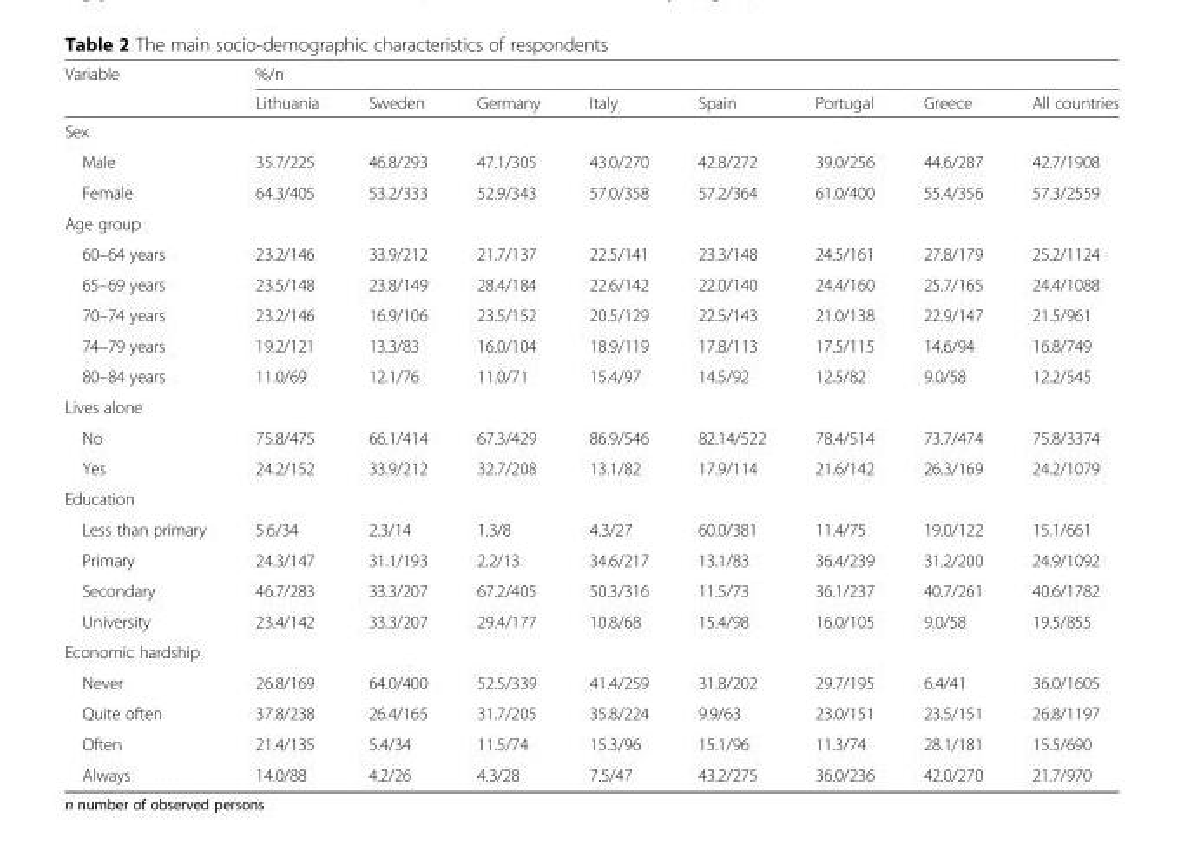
<table><thead><tr><td rowspan="2">Variable</td><td colspan="8">%/n</td></tr><tr><td>Lithuania</td><td>Sweden</td><td>Germany</td><td>Italy</td><td>Spain</td><td>Portugal</td><td>Greece</td><td>All countries</td></tr></thead><tbody><tr><td colspan="9">Sex</td></tr><tr><td>Male</td><td>35.7/225</td><td>46.8/293</td><td>47.1/305</td><td>43.0/270</td><td>42.8/272</td><td>39.0/256</td><td>44.6/287</td><td>42.7/1908</td></tr><tr><td>Female</td><td>64.3/405</td><td>53.2/333</td><td>52.9/343</td><td>57.0/358</td><td>57.2/364</td><td>61.0/400</td><td>55.4/356</td><td>57.3/2559</td></tr><tr><td colspan="9">Age group</td></tr><tr><td>60–64 years</td><td>23.2/146</td><td>33.9/212</td><td>21.7/137</td><td>22.5/141</td><td>23.3/148</td><td>24.5/161</td><td>27.8/179</td><td>25.2/1124</td></tr><tr><td>65–69 years</td><td>23.5/148</td><td>23.8/149</td><td>28.4/184</td><td>22.6/142</td><td>22.0/140</td><td>24.4/160</td><td>25.7/165</td><td>24.4/1088</td></tr><tr><td>70–74 years</td><td>23.2/146</td><td>16.9/106</td><td>23.5/152</td><td>20.5/129</td><td>22.5/143</td><td>21.0/138</td><td>22.9/147</td><td>21.5/961</td></tr><tr><td>74–79 years</td><td>19.2/121</td><td>13.3/83</td><td>16.0/104</td><td>18.9/119</td><td>17.8/113</td><td>17.5/115</td><td>14.6/94</td><td>16.8/749</td></tr><tr><td>80–84 years</td><td>11.0/69</td><td>12.1/76</td><td>11.0/71</td><td>15.4/97</td><td>14.5/92</td><td>12.5/82</td><td>9.0/58</td><td>12.2/545</td></tr><tr><td colspan="9">Lives alone</td></tr><tr><td>No</td><td>75.8/475</td><td>66.1/414</td><td>67.3/429</td><td>86.9/546</td><td>82.14/522</td><td>78.4/514</td><td>73.7/474</td><td>75.8/3374</td></tr><tr><td>Yes</td><td>24.2/152</td><td>33.9/212</td><td>32.7/208</td><td>13.1/82</td><td>17.9/114</td><td>21.6/142</td><td>26.3/169</td><td>24.2/1079</td></tr><tr><td colspan="9">Education</td></tr><tr><td>Less than primary</td><td>5.6/34</td><td>2.3/14</td><td>1.3/8</td><td>4.3/27</td><td>60.0/381</td><td>11.4/75</td><td>19.0/122</td><td>15.1/661</td></tr><tr><td>Primary</td><td>24.3/147</td><td>31.1/193</td><td>2.2/13</td><td>34.6/217</td><td>13.1/83</td><td>36.4/239</td><td>31.2/200</td><td>24.9/1092</td></tr><tr><td>Secondary</td><td>46.7/283</td><td>33.3/207</td><td>67.2/405</td><td>50.3/316</td><td>11.5/73</td><td>36.1/237</td><td>40.7/261</td><td>40.6/1782</td></tr><tr><td>University</td><td>23.4/142</td><td>33.3/207</td><td>29.4/177</td><td>10.8/68</td><td>15.4/98</td><td>16.0/105</td><td>9.0/58</td><td>19.5/855</td></tr><tr><td colspan="9">Economic hardship</td></tr><tr><td>Never</td><td>26.8/169</td><td>64.0/400</td><td>52.5/339</td><td>41.4/259</td><td>31.8/202</td><td>29.7/195</td><td>6.4/41</td><td>36.0/1605</td></tr><tr><td>Quite often</td><td>37.8/238</td><td>26.4/165</td><td>31.7/205</td><td>35.8/224</td><td>9.9/63</td><td>23.0/151</td><td>23.5/151</td><td>26.8/1197</td></tr><tr><td>Often</td><td>21.4/135</td><td>5.4/34</td><td>11.5/74</td><td>15.3/96</td><td>15.1/96</td><td>11.3/74</td><td>28.1/181</td><td>15.5/690</td></tr><tr><td>Always</td><td>14.0/88</td><td>4.2/26</td><td>4.3/28</td><td>7.5/47</td><td>43.2/275</td><td>36.0/236</td><td>42.0/270</td><td>21.7/970</td></tr></tbody></table>